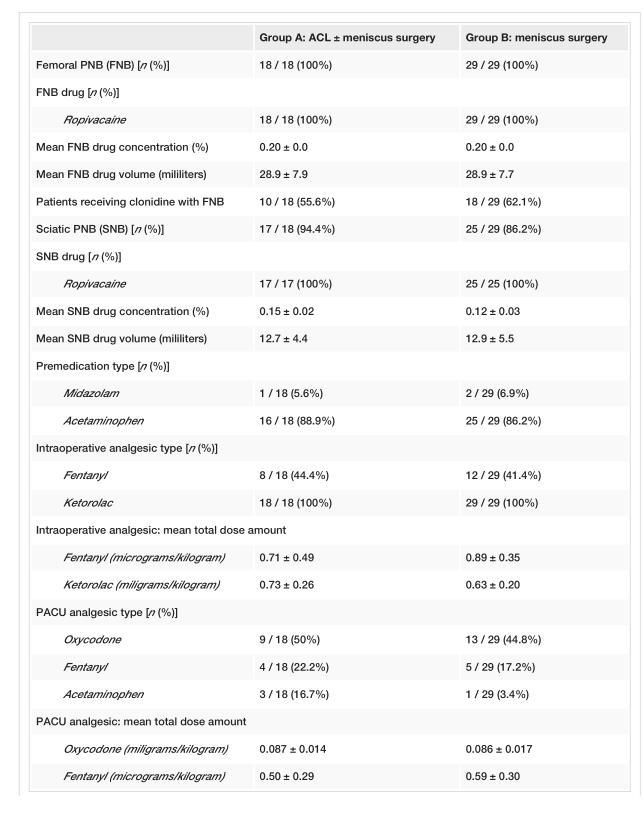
<table><thead><tr><td></td><td>Group A: ACL ± meniscus surgery</td><td>Group B: meniscus surgery</td></tr></thead><tbody><tr><td>Femoral PNB (FNB) [n (%)]</td><td>18 / 18 (100%)</td><td>29 / 29 (100%)</td></tr><tr><td colspan="3">FNB drug [n (%)]</td></tr><tr><td>Ropivacaine</td><td>18 / 18 (100%)</td><td>29 / 29 (100%)</td></tr><tr><td>Mean FNB drug concentration (%)</td><td>0.20 ± 0.0</td><td>0.20 ± 0.0</td></tr><tr><td>Mean FNB drug volume (mililiters)</td><td>28.9 ± 7.9</td><td>28.9 ± 7.7</td></tr><tr><td>Patients receiving clonidine with FNB</td><td>10 / 18 (55.6%)</td><td>18 / 29 (62.1%)</td></tr><tr><td>Sciatic PNB (SNB) [n (%)]</td><td>17 / 18 (94.4%)</td><td>25 / 29 (86.2%)</td></tr><tr><td colspan="3">SNB drug [n (%)]</td></tr><tr><td>Ropivacaine</td><td>17 / 17 (100%)</td><td>25 / 25 (100%)</td></tr><tr><td>Mean SNB drug concentration (%)</td><td>0.15 ± 0.02</td><td>0.12 ± 0.03</td></tr><tr><td>Mean SNB drug volume (mililiters)</td><td>12.7 ± 4.4</td><td>12.9 ± 5.5</td></tr><tr><td colspan="3">Premedication type [n (%)]</td></tr><tr><td>Midazolam</td><td>1 / 18 (5.6%)</td><td>2 / 29 (6.9%)</td></tr><tr><td>Acetaminophen</td><td>16 / 18 (88.9%)</td><td>25 / 29 (86.2%)</td></tr><tr><td colspan="3">Intraoperative analgesic type [n (%)]</td></tr><tr><td>Fentanyl</td><td>8 / 18 (44.4%)</td><td>12 / 29 (41.4%)</td></tr><tr><td>Ketorolac</td><td>18 / 18 (100%)</td><td>29 / 29 (100%)</td></tr><tr><td colspan="3">Intraoperative analgesic: mean total dose amount</td></tr><tr><td>Fentanyl (micrograms/kilogram)</td><td>0.71 ± 0.49</td><td>0.89 ± 0.35</td></tr><tr><td>Ketorolac (miligrams/kilogram)</td><td>0.73 ± 0.26</td><td>0.63 ± 0.20</td></tr><tr><td colspan="3">PACU analgesic type [n (%)]</td></tr><tr><td>Oxycodone</td><td>9 / 18 (50%)</td><td>13 / 29 (44.8%)</td></tr><tr><td>Fentanyl</td><td>4 / 18 (22.2%)</td><td>5 / 29 (17.2%)</td></tr><tr><td>Acetaminophen</td><td>3 / 18 (16.7%)</td><td>1 / 29 (3.4%)</td></tr><tr><td colspan="3">PACU analgesic: mean total dose amount</td></tr><tr><td>Oxycodone (miligrams/kilogram)</td><td>0.087 ± 0.014</td><td>0.086 ± 0.017</td></tr><tr><td>Fentanyl (micrograms/kilogram)</td><td>0.50 ± 0.29</td><td>0.59 ± 0.30</td></tr></tbody></table>